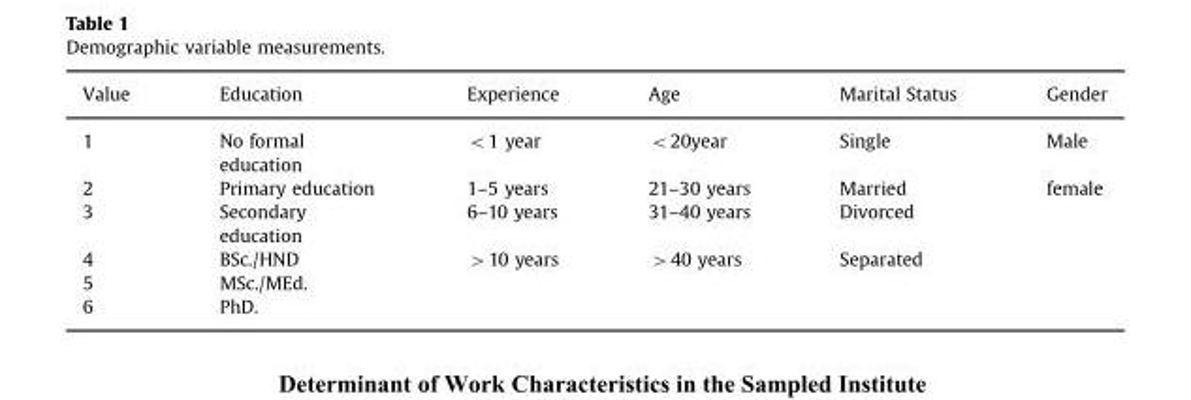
<table><thead><tr><td>Value</td><td>Education</td><td>Experience</td><td>Age</td><td>Marital Status</td><td>Gender</td></tr></thead><tbody><tr><td>1</td><td>No formal education</td><td>&lt;1 year</td><td>&lt;20year</td><td>Single</td><td>Male</td></tr><tr><td>2</td><td>Primary education</td><td>1–5 years</td><td>21–30 years</td><td>Married</td><td>female</td></tr><tr><td>3</td><td>Secondary education</td><td>6–10 years</td><td>31–40 years</td><td>Divorced</td><td></td></tr><tr><td>4</td><td>BSc./HND</td><td>&gt;10 years</td><td>&gt;40 years</td><td>Separated</td><td></td></tr><tr><td>5</td><td>MSc./MEd.</td><td></td><td></td><td></td><td></td></tr><tr><td>6</td><td>PhD.</td><td></td><td></td><td></td><td></td></tr></tbody></table>